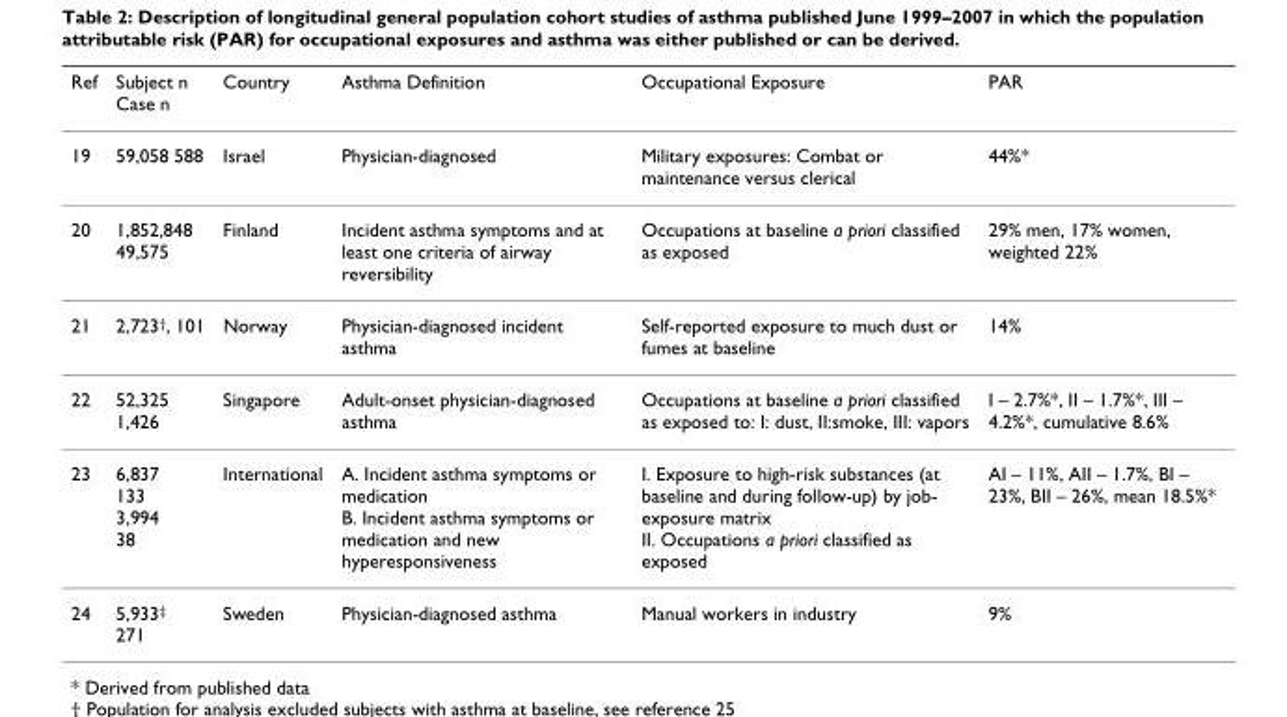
<table><thead><tr><td>Ref</td><td>Subject n Case n</td><td>Country</td><td>Asthma Definition</td><td>Occupational Exposure</td><td>PAR</td></tr></thead><tbody><tr><td>19</td><td>59,058 588</td><td>Israel</td><td>Physician-diagnosed</td><td>Military exposures: Combat or maintenance versus clerical</td><td>44%*</td></tr><tr><td>20</td><td>1,852,848 49,575</td><td>Finland</td><td>Incident asthma symptoms and at least one criteria of airway reversibility</td><td>Occupations at baseline a priori classified as exposed</td><td>29% men, 17% women, weighted 22%</td></tr><tr><td>21</td><td>2,723<sup>†</sup>, 101</td><td>Norway</td><td>Physician-diagnosed incident asthma</td><td>Self-reported exposure to much dust or fumes at baseline</td><td>14%</td></tr><tr><td>22</td><td>52,325 1,426</td><td>Singapore</td><td>Adult-onset physician-diagnosed asthma</td><td>Occupations at baseline a priori classified as exposed to: I: dust, II:smoke, III: vapors</td><td>I – 2.7%*, II – 1.7%*, III – 4.2%*, cumulative 8.6%</td></tr><tr><td>23</td><td>6,837 133 3,994 38</td><td>International</td><td>A. Incident asthma symptoms or medication B. Incident asthma symptoms or medication and new hyperesponsiveness</td><td>I. Exposure to high-risk substances (at baseline and during follow-up) by job- exposure matrix II. Occupations a priori classified as exposed</td><td>AI – 11%, AII – 1.7%, BI – 23%, BII – 26%, mean 18.5%*</td></tr><tr><td>24</td><td>5,933<sup>‡</sup> 271</td><td>Sweden</td><td>Physician-diagnosed asthma</td><td>Manual workers in industry</td><td>9%</td></tr></tbody></table>